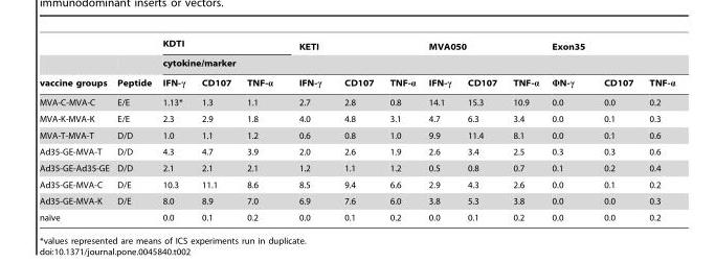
<table><thead><tr><td rowspan="3">vaccine groups</td><td rowspan="3">Peptide</td><td colspan="3">KDTI</td><td colspan="3">KETI</td><td colspan="3">MVA050</td><td colspan="3">Exon35</td></tr><tr><td colspan="12">cytokine/marker</td></tr><tr><td>IFN-γ</td><td>CD107</td><td>TNF-α</td><td>IFN-γ</td><td>CD107</td><td>TNF-α</td><td>IFN-γ</td><td>CD107</td><td>TNF-α</td><td>ΦN-γ</td><td>CD107</td><td>TNF-α</td></tr></thead><tbody><tr><td>MVA-C-MVA-C</td><td>E/E</td><td>1.13*</td><td>1.3</td><td>1.1</td><td>2.7</td><td>2.8</td><td>0.8</td><td>14.1</td><td>15.3</td><td>10.9</td><td>0.0</td><td>0.0</td><td>0.2</td></tr><tr><td>MVA-K-MVA-K</td><td>E/E</td><td>2.3</td><td>2.9</td><td>1.8</td><td>4.0</td><td>4.8</td><td>3.1</td><td>4.7</td><td>6.3</td><td>3.4</td><td>0.0</td><td>0.1</td><td>0.3</td></tr><tr><td>MVA-T-MVA-T</td><td>D/D</td><td>1.0</td><td>1.1</td><td>1.2</td><td>0.6</td><td>0.8</td><td>1.0</td><td>9.9</td><td>11.4</td><td>8.1</td><td>0.0</td><td>0.1</td><td>0.6</td></tr><tr><td>Ad35-GE-MVA-T</td><td>D/D</td><td>4.3</td><td>4.7</td><td>3.9</td><td>2.0</td><td>2.6</td><td>1.9</td><td>2.6</td><td>3.4</td><td>2.5</td><td>0.3</td><td>0.3</td><td>0.6</td></tr><tr><td>Ad35-GE-Ad35-GE</td><td>D/D</td><td>2.1</td><td>2.1</td><td>2.1</td><td>1.2</td><td>1.1</td><td>1.2</td><td>0.5</td><td>0.8</td><td>0.7</td><td>0.1</td><td>0.2</td><td>0.4</td></tr><tr><td>Ad35-GE-MVA-C</td><td>D/E</td><td>10.3</td><td>11.1</td><td>8.6</td><td>8.5</td><td>9.4</td><td>6.6</td><td>2.9</td><td>4.3</td><td>2.6</td><td>0.0</td><td>0.1</td><td>0.2</td></tr><tr><td>Ad35-GE-MVA-K</td><td>D/E</td><td>8.0</td><td>8.9</td><td>7.0</td><td>6.9</td><td>7.6</td><td>6.0</td><td>3.8</td><td>5.3</td><td>3.8</td><td>0.0</td><td>0.0</td><td>0.3</td></tr><tr><td>naı¨ve</td><td></td><td>0.0</td><td>0.1</td><td>0.2</td><td>0.0</td><td>0.1</td><td>0.2</td><td>0.0</td><td>0.1</td><td>0.2</td><td>0.0</td><td>0.0</td><td>0.2</td></tr></tbody></table>